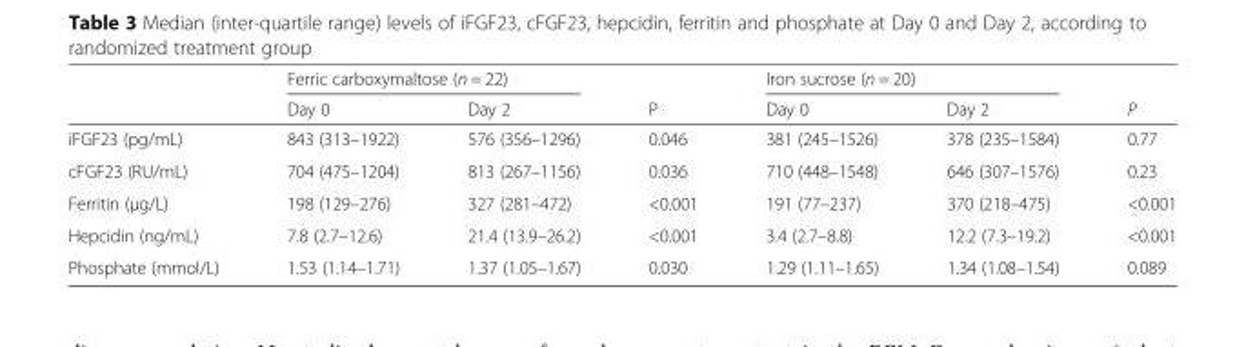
<table><thead><tr><td rowspan="2"></td><td colspan="2">Ferric carboxymaltose (n = 22)</td><td rowspan="2">P</td><td colspan="2">Iron sucrose (n = 20)</td><td rowspan="2">P</td></tr><tr><td>Day 0</td><td>Day 2</td><td>Day 0</td><td>Day 2</td></tr></thead><tbody><tr><td>iFGF23 (pg/mL)</td><td>843 (313–1922)</td><td>576 (356–1296)</td><td>0.046</td><td>381 (245–1526)</td><td>378 (235–1584)</td><td>0.77</td></tr><tr><td>cFGF23 (RU/mL)</td><td>704 (475–1204)</td><td>813 (267–1156)</td><td>0.036</td><td>710 (448–1548)</td><td>646 (307–1576)</td><td>0.23</td></tr><tr><td>Ferritin (μg/L)</td><td>198 (129–276)</td><td>327 (281–472)</td><td>&lt;0.001</td><td>191 (77–237)</td><td>370 (218–475)</td><td>&lt;0.001</td></tr><tr><td>Hepcidin (ng/mL)</td><td>7.8 (2.7–12.6)</td><td>21.4 (13.9–26.2)</td><td>&lt;0.001</td><td>3.4 (2.7–8.8)</td><td>12.2 (7.3–19.2)</td><td>&lt;0.001</td></tr><tr><td>Phosphate (mmol/L)</td><td>1.53 (1.14–1.71)</td><td>1.37 (1.05–1.67)</td><td>0.030</td><td>1.29 (1.11–1.65)</td><td>1.34 (1.08–1.54)</td><td>0.089</td></tr></tbody></table>